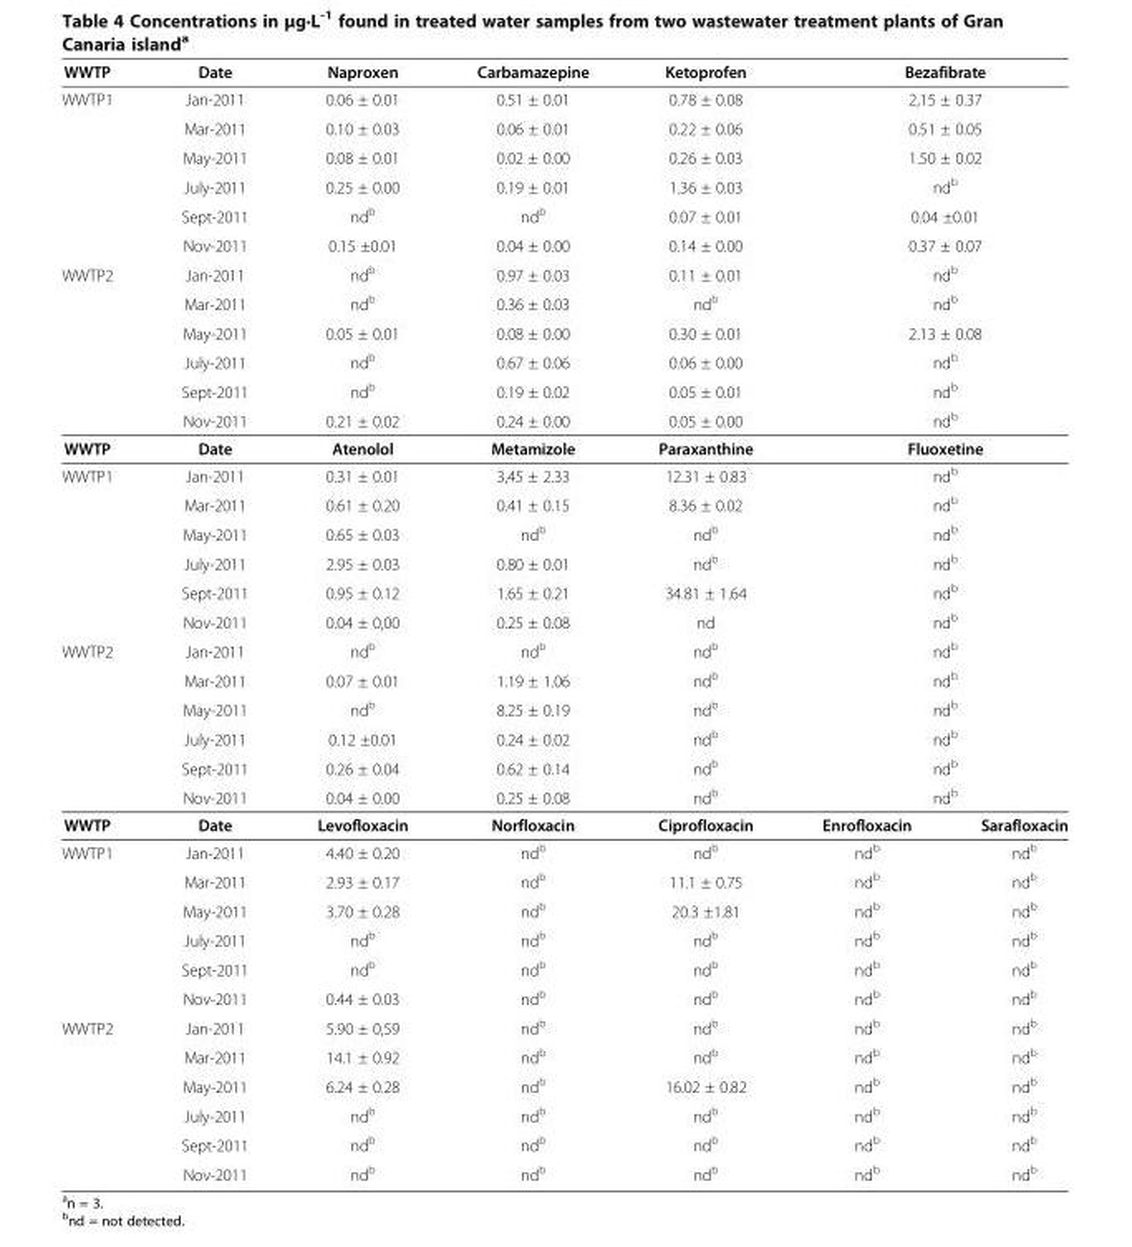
<table><thead><tr><td>WWTP</td><td>Date</td><td>Naproxen</td><td>Carbamazepine</td><td>Ketoprofen</td><td colspan="2">Bezafibrate</td></tr></thead><tbody><tr><td rowspan="6">WWTP1</td><td>Jan-2011</td><td>0.06 ± 0.01</td><td>0.51 ± 0.01</td><td>0.78 ± 0.08</td><td colspan="2">2,15 ± 0.37</td></tr><tr><td>Mar-2011</td><td>0.10 ± 0.03</td><td>0.06 ± 0.01</td><td>0.22 ± 0.06</td><td colspan="2">0.51 ± 0.05</td></tr><tr><td>May-2011</td><td>0.08 ± 0.01</td><td>0.02 ± 0.00</td><td>0.26 ± 0.03</td><td colspan="2">1.50 ± 0.02</td></tr><tr><td>July-2011</td><td>0.25 ± 0.00</td><td>0.19 ± 0.01</td><td>1.36 ± 0.03</td><td colspan="2">nd<sup>b</sup></td></tr><tr><td>Sept-2011</td><td>nd<sup>b</sup></td><td>nd<sup>b</sup></td><td>0.07 ± 0.01</td><td colspan="2">0.04 ±0.01</td></tr><tr><td>Nov-2011</td><td>0.15 ±0.01</td><td>0.04 ± 0.00</td><td>0.14 ± 0.00</td><td colspan="2">0.37 ± 0.07</td></tr><tr><td rowspan="6">WWTP2</td><td>Jan-2011</td><td>nd<sup>b</sup></td><td>0.97 ± 0.03</td><td>0.11 ± 0.01</td><td colspan="2">nd<sup>b</sup></td></tr><tr><td>Mar-2011</td><td>nd<sup>b</sup></td><td>0.36 ± 0.03</td><td>nd<sup>b</sup></td><td colspan="2">nd<sup>b</sup></td></tr><tr><td>May-2011</td><td>0.05 ± 0.01</td><td>0.08 ± 0.00</td><td>0.30 ± 0.01</td><td colspan="2">2.13 ± 0.08</td></tr><tr><td>July-2011</td><td>nd<sup>b</sup></td><td>0.67 ± 0.06</td><td>0.06 ± 0.00</td><td colspan="2">nd<sup>b</sup></td></tr><tr><td>Sept-2011</td><td>nd<sup>b</sup></td><td>0.19 ± 0.02</td><td>0.05 ± 0.01</td><td colspan="2">nd<sup>b</sup></td></tr><tr><td>Nov-2011</td><td>0.21 ± 0.02</td><td>0.24 ± 0.00</td><td>0.05 ± 0.00</td><td colspan="2">nd<sup>b</sup></td></tr><tr><td>WWTP</td><td>Date</td><td>Atenolol</td><td>Metamizole</td><td>Paraxanthine</td><td colspan="2">Fluoxetine</td></tr><tr><td rowspan="6">WWTP1</td><td>Jan-2011</td><td>0.31 ± 0.01</td><td>3,45 ± 2.33</td><td>12.31 ± 0.83</td><td colspan="2">nd<sup>b</sup></td></tr><tr><td>Mar-2011</td><td>0.61 ± 0.20</td><td>0.41 ± 0.15</td><td>8.36 ± 0.02</td><td colspan="2">nd<sup>b</sup></td></tr><tr><td>May-2011</td><td>0.65 ± 0.03</td><td>nd<sup>b</sup></td><td>nd<sup>b</sup></td><td colspan="2">nd<sup>b</sup></td></tr><tr><td>July-2011</td><td>2.95 ± 0.03</td><td>0.80 ± 0.01</td><td>nd<sup>b</sup></td><td colspan="2">nd<sup>b</sup></td></tr><tr><td>Sept-2011</td><td>0.95 ± 0.12</td><td>1.65 ± 0.21</td><td>34.81 ± 1.64</td><td colspan="2">nd<sup>b</sup></td></tr><tr><td>Nov-2011</td><td>0.04 ± 0,00</td><td>0.25 ± 0.08</td><td>nd</td><td colspan="2">nd<sup>b</sup></td></tr><tr><td rowspan="6">WWTP2</td><td>Jan-2011</td><td>nd<sup>b</sup></td><td>nd<sup>b</sup></td><td>nd<sup>b</sup></td><td colspan="2">nd<sup>b</sup></td></tr><tr><td>Mar-2011</td><td>0.07 ± 0.01</td><td>1.19 ± 1.06</td><td>nd<sup>b</sup></td><td colspan="2">nd<sup>b</sup></td></tr><tr><td>May-2011</td><td>nd<sup>b</sup></td><td>8.25 ± 0.19</td><td>nd<sup>b</sup></td><td colspan="2">nd<sup>b</sup></td></tr><tr><td>July-2011</td><td>0.12 ±0.01</td><td>0.24 ± 0.02</td><td>nd<sup>b</sup></td><td colspan="2">nd<sup>b</sup></td></tr><tr><td>Sept-2011</td><td>0.26 ± 0.04</td><td>0.62 ± 0.14</td><td>nd<sup>b</sup></td><td colspan="2">nd<sup>b</sup></td></tr><tr><td>Nov-2011</td><td>0.04 ± 0.00</td><td>0.25 ± 0.08</td><td>nd<sup>b</sup></td><td colspan="2">nd<sup>b</sup></td></tr><tr><td>WWTP</td><td>Date</td><td>Levofloxacin</td><td>Norfloxacin</td><td>Ciprofloxacin</td><td>Enrofloxacin</td><td>Sarafloxacin</td></tr><tr><td rowspan="6">WWTP1</td><td>Jan-2011</td><td>4.40 ± 0.20</td><td>nd<sup>b</sup></td><td>nd<sup>b</sup></td><td>nd<sup>b</sup></td><td>nd<sup>b</sup></td></tr><tr><td>Mar-2011</td><td>2.93 ± 0.17</td><td>nd<sup>b</sup></td><td>11.1 ± 0.75</td><td>nd<sup>b</sup></td><td>nd<sup>b</sup></td></tr><tr><td>May-2011</td><td>3.70 ± 0.28</td><td>nd<sup>b</sup></td><td>20.3 ±1.81</td><td>nd<sup>b</sup></td><td>nd<sup>b</sup></td></tr><tr><td>July-2011</td><td>nd<sup>b</sup></td><td>nd<sup>b</sup></td><td>nd<sup>b</sup></td><td>nd<sup>b</sup></td><td>nd<sup>b</sup></td></tr><tr><td>Sept-2011</td><td>nd<sup>b</sup></td><td>nd<sup>b</sup></td><td>nd<sup>b</sup></td><td>nd<sup>b</sup></td><td>nd<sup>b</sup></td></tr><tr><td>Nov-2011</td><td>0.44 ± 0.03</td><td>nd<sup>b</sup></td><td>nd<sup>b</sup></td><td>nd<sup>b</sup></td><td>nd<sup>b</sup></td></tr><tr><td rowspan="6">WWTP2</td><td>Jan-2011</td><td>5.90 ± 0,59</td><td>nd<sup>b</sup></td><td>nd<sup>b</sup></td><td>nd<sup>b</sup></td><td>nd<sup>b</sup></td></tr><tr><td>Mar-2011</td><td>14.1 ± 0.92</td><td>nd<sup>b</sup></td><td>nd<sup>b</sup></td><td>nd<sup>b</sup></td><td>nd<sup>b</sup></td></tr><tr><td>May-2011</td><td>6.24 ± 0.28</td><td>nd<sup>b</sup></td><td>16.02 ± 0.82</td><td>nd<sup>b</sup></td><td>nd<sup>b</sup></td></tr><tr><td>July-2011</td><td>nd<sup>b</sup></td><td>nd<sup>b</sup></td><td>nd<sup>b</sup></td><td>nd<sup>b</sup></td><td>nd<sup>b</sup></td></tr><tr><td>Sept-2011</td><td>nd<sup>b</sup></td><td>nd<sup>b</sup></td><td>nd<sup>b</sup></td><td>nd<sup>b</sup></td><td>nd<sup>b</sup></td></tr><tr><td>Nov-2011</td><td>nd<sup>b</sup></td><td>nd<sup>b</sup></td><td>nd<sup>b</sup></td><td>nd<sup>b</sup></td><td>nd<sup>b</sup></td></tr></tbody></table>